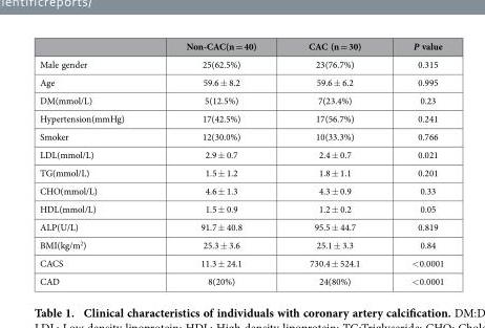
<table><thead><tr><td></td><td>Non-CAC(n = 40)</td><td>CAC (n = 30)</td><td>P value</td></tr></thead><tbody><tr><td>Male gender</td><td>25(62.5%)</td><td>23(76.7%)</td><td>0.315</td></tr><tr><td>Age</td><td>59.6 ± 8.2</td><td>59.6 ± 6.2</td><td>0.995</td></tr><tr><td>DM(mmol/L)</td><td>5(12.5%)</td><td>7(23.4%)</td><td>0.23</td></tr><tr><td>Hypertension(mmHg)</td><td>17(42.5%)</td><td>17(56.7%)</td><td>0.241</td></tr><tr><td>Smoker</td><td>12(30.0%)</td><td>10(33.3%)</td><td>0.766</td></tr><tr><td>LDL(mmol/L)</td><td>2.9 ± 0.7</td><td>2.4 ± 0.7</td><td>0.021</td></tr><tr><td>TG(mmol/L)</td><td>1.5 ± 1.2</td><td>1.8 ± 1.1</td><td>0.201</td></tr><tr><td>CHO(mmol/L)</td><td>4.6 ± 1.3</td><td>4.3 ± 0.9</td><td>0.33</td></tr><tr><td>HDL(mmol/L)</td><td>1.5 ± 0.9</td><td>1.2 ± 0.2</td><td>0.05</td></tr><tr><td>ALP(U/L)</td><td>91.7 ± 40.8</td><td>95.5 ± 44.7</td><td>0.819</td></tr><tr><td>BMI(kg/m<sup>2</sup>)</td><td>25.3 ± 3.6</td><td>25.1 ± 3.3</td><td>0.84</td></tr><tr><td>CACS</td><td>11.3 ± 24.1</td><td>730.4 ± 524.1</td><td>&lt; 0.0001</td></tr><tr><td>CAD</td><td>8(20%)</td><td>24(80%)</td><td>&lt; 0.0001</td></tr></tbody></table>